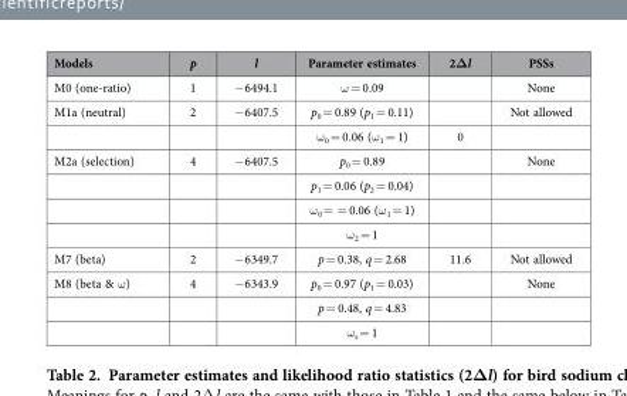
<table><thead><tr><td>Models</td><td>p</td><td>l</td><td>Parameter estimates</td><td>2Δl</td><td>PSSs</td></tr></thead><tbody><tr><td>M0 (one-ratio)</td><td>1</td><td>− 6494.1</td><td>ω = 0.09</td><td></td><td>None</td></tr><tr><td rowspan="2">M1a (neutral)</td><td>2</td><td>− 6407.5</td><td>p<sub>0</sub> = 0.89 (p<sub>1</sub> = 0.11)</td><td></td><td>Not allowed</td></tr><tr><td></td><td></td><td>ω <sub>0</sub> = 0.06 (ω <sub>1</sub> = 1)</td><td>0</td><td></td></tr><tr><td rowspan="4">M2a (selection)</td><td>4</td><td>− 6407.5</td><td>p<sub>0</sub> = 0.89</td><td></td><td>None</td></tr><tr><td></td><td></td><td>p<sub>1</sub> = 0.06 (p<sub>2</sub> = 0.04)</td><td></td><td></td></tr><tr><td></td><td></td><td>ω <sub>0</sub> = = 0.06 (ω <sub>1</sub> = 1)</td><td></td><td></td></tr><tr><td></td><td></td><td>ω <sub>2</sub> = 1</td><td></td><td></td></tr><tr><td>M7 (beta)</td><td>2</td><td>− 6349.7</td><td>p = 0.38, q = 2.68</td><td>11.6</td><td>Not allowed</td></tr><tr><td rowspan="3">M8 (beta &amp; ω )</td><td>4</td><td>− 6343.9</td><td>p<sub>0</sub> = 0.97 (p<sub>1</sub> = 0.03)</td><td></td><td>None</td></tr><tr><td></td><td></td><td>p = 0.48, q = 4.83</td><td></td><td></td></tr><tr><td></td><td></td><td>ω <sub>s</sub> = 1</td><td></td><td></td></tr></tbody></table>